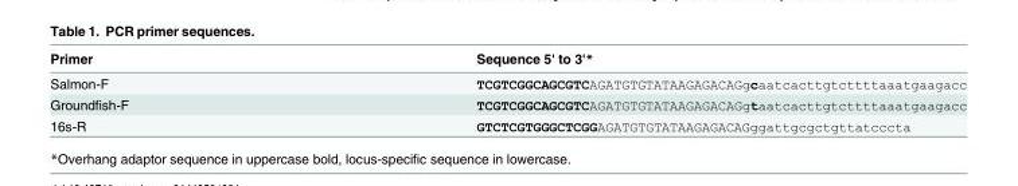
<table><thead><tr><td>Primer</td><td>Sequence 5&#x27; to 3&#x27;*</td></tr></thead><tbody><tr><td>Salmon-F</td><td>TCGTCGGCAGCGTCAGATGTGTATAAGAGACAGgcaatcacttgtcttttaaatgaagacc</td></tr><tr><td>Groundfish-F</td><td>TCGTCGGCAGCGTCAGATGTGTATAAGAGACAGgtaatcacttgtcttttaaatgaagacc</td></tr><tr><td>16s-R</td><td>GTCTCGTGGGCTCGGAGATGTGTATAAGAGACAGggattgcgctgttatcccta</td></tr></tbody></table>